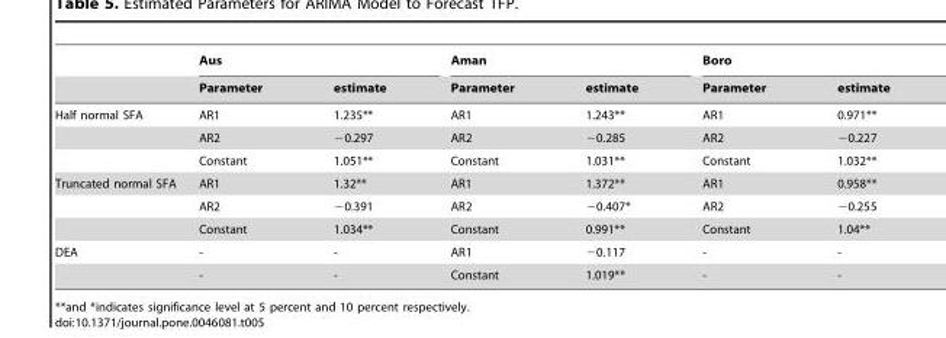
<table><thead><tr><td rowspan="2"></td><td colspan="2">Aus</td><td colspan="2">Aman</td><td colspan="2">Boro</td></tr><tr><td>Parameter</td><td>estimate</td><td>Parameter</td><td>estimate</td><td>Parameter</td><td>estimate</td></tr></thead><tbody><tr><td rowspan="3">Half normal SFA</td><td>AR1</td><td>1.235**</td><td>AR1</td><td>1.243**</td><td>AR1</td><td>0.971**</td></tr><tr><td>AR2</td><td>−0.297</td><td>AR2</td><td>−0.285</td><td>AR2</td><td>−0.227</td></tr><tr><td>Constant</td><td>1.051**</td><td>Constant</td><td>1.031**</td><td>Constant</td><td>1.032**</td></tr><tr><td rowspan="3">Truncated normal SFA</td><td>AR1</td><td>1.32**</td><td>AR1</td><td>1.372**</td><td>AR1</td><td>0.958**</td></tr><tr><td>AR2</td><td>−0.391</td><td>AR2</td><td>−0.407*</td><td>AR2</td><td>−0.255</td></tr><tr><td>Constant</td><td>1.034**</td><td>Constant</td><td>0.991**</td><td>Constant</td><td>1.04**</td></tr><tr><td rowspan="2">DEA</td><td>-</td><td>-</td><td>AR1</td><td>−0.117</td><td>-</td><td>-</td></tr><tr><td>-</td><td>-</td><td>Constant</td><td>1.019**</td><td>-</td><td>-</td></tr></tbody></table>